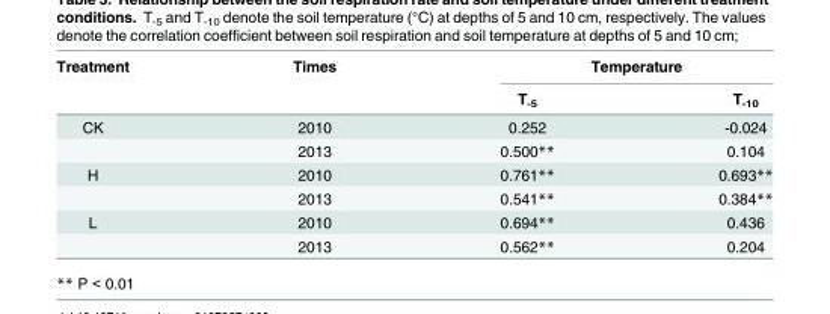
<table><thead><tr><td rowspan="2">Treatment</td><td rowspan="2">Times</td><td colspan="2">Temperature</td></tr><tr><td>T<sub>-5</sub></td><td>T<sub>-10</sub></td></tr></thead><tbody><tr><td rowspan="2">CK</td><td>2010</td><td>0.252</td><td>-0.024</td></tr><tr><td>2013</td><td>0.500**</td><td>0.104</td></tr><tr><td rowspan="2">H</td><td>2010</td><td>0.761**</td><td>0.693**</td></tr><tr><td>2013</td><td>0.541**</td><td>0.384**</td></tr><tr><td rowspan="2">L</td><td>2010</td><td>0.694**</td><td>0.436</td></tr><tr><td>2013</td><td>0.562**</td><td>0.204</td></tr></tbody></table>